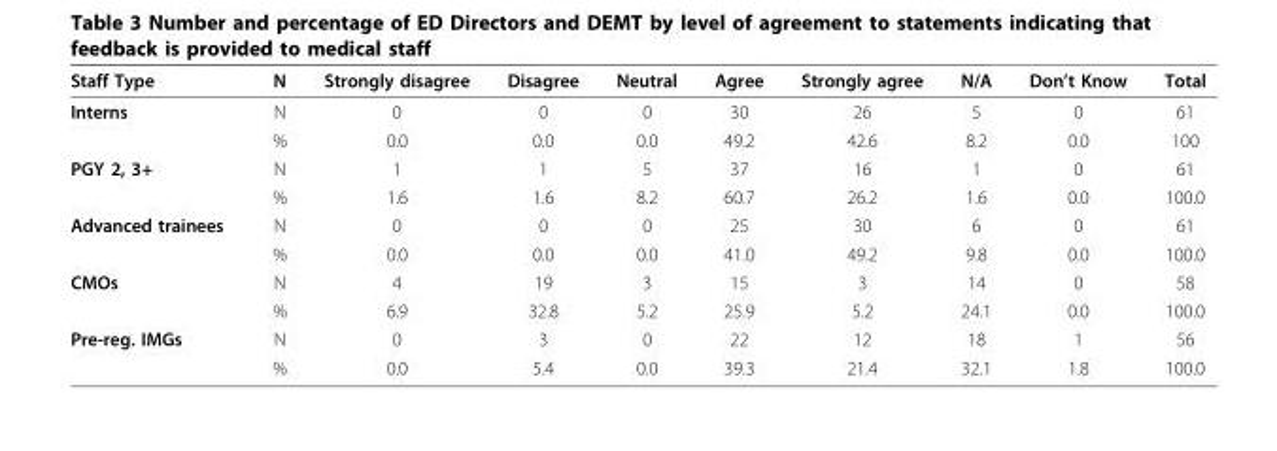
<table><thead><tr><td>Staff Type</td><td>N</td><td>Strongly disagree</td><td>Disagree</td><td>Neutral</td><td>Agree</td><td>Strongly agree</td><td>N/A</td><td>Don’t Know</td><td>Total</td></tr></thead><tbody><tr><td rowspan="2">Interns</td><td>N</td><td>0</td><td>0</td><td>0</td><td>30</td><td>26</td><td>5</td><td>0</td><td>61</td></tr><tr><td>%</td><td>0.0</td><td>0.0</td><td>0.0</td><td>49.2</td><td>42.6</td><td>8.2</td><td>0.0</td><td>100</td></tr><tr><td rowspan="2">PGY 2, 3+</td><td>N</td><td>1</td><td>1</td><td>5</td><td>37</td><td>16</td><td>1</td><td>0</td><td>61</td></tr><tr><td>%</td><td>1.6</td><td>1.6</td><td>8.2</td><td>60.7</td><td>26.2</td><td>1.6</td><td>0.0</td><td>100.0</td></tr><tr><td rowspan="2">Advanced trainees</td><td>N</td><td>0</td><td>0</td><td>0</td><td>25</td><td>30</td><td>6</td><td>0</td><td>61</td></tr><tr><td>%</td><td>0.0</td><td>0.0</td><td>0.0</td><td>41.0</td><td>49.2</td><td>9.8</td><td>0.0</td><td>100.0</td></tr><tr><td rowspan="2">CMOs</td><td>N</td><td>4</td><td>19</td><td>3</td><td>15</td><td>3</td><td>14</td><td>0</td><td>58</td></tr><tr><td>%</td><td>6.9</td><td>32.8</td><td>5.2</td><td>25.9</td><td>5.2</td><td>24.1</td><td>0.0</td><td>100.0</td></tr><tr><td rowspan="2">Pre-reg. IMGs</td><td>N</td><td>0</td><td>3</td><td>0</td><td>22</td><td>12</td><td>18</td><td>1</td><td>56</td></tr><tr><td>%</td><td>0.0</td><td>5.4</td><td>0.0</td><td>39.3</td><td>21.4</td><td>32.1</td><td>1.8</td><td>100.0</td></tr></tbody></table>